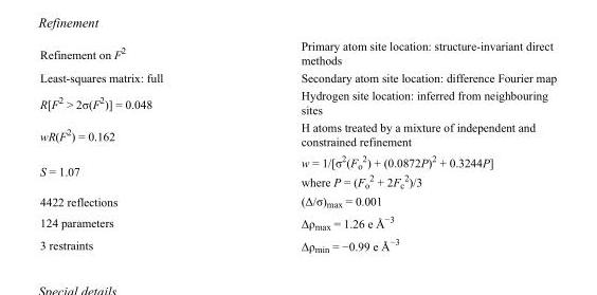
<table><tbody><tr><td>Refinement on F<sup>2</sup></td><td>Primary atom site location: structure-invariant direct methods</td></tr><tr><td>Least-squares matrix: full</td><td>Secondary atom site location: difference Fourier map</td></tr><tr><td>R[F<sup>2</sup> &gt; 2σ(F<sup>2</sup>)] = 0.048</td><td>Hydrogen site location: inferred from neighbouring sites</td></tr><tr><td>wR(F<sup>2</sup>) = 0.162</td><td>H atoms treated by a mixture of independent and constrained refinement</td></tr><tr><td>S = 1.07</td><td>w = 1/[σ<sup>2</sup>(F<sub>o</sub> <sup>2</sup>) + (0.0872P)<sup>2</sup> + 0.3244P] where P = (F<sub>o</sub> <sup>2</sup> + 2F<sub>c</sub> <sup>2</sup>)/3</td></tr><tr><td>4422 reflections</td><td>(Δ/σ)<sub>max</sub> = 0.001</td></tr><tr><td>124 parameters</td><td>Δρ<sub>max</sub> = 1.26 e Å<sup>−3</sup></td></tr><tr><td>3 restraints</td><td>Δρ<sub>min</sub> = −0.99 e Å<sup>−3</sup></td></tr></tbody></table>